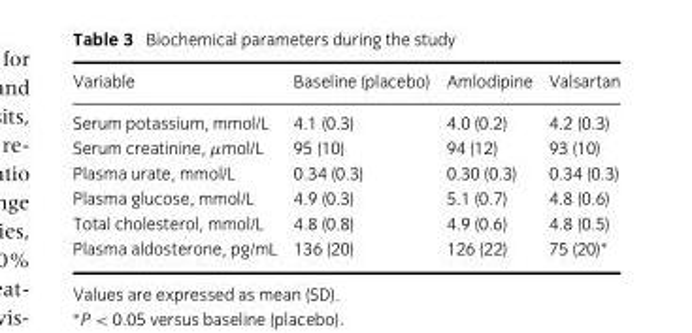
<table><thead><tr><td>Variable</td><td>Baseline (placebo)</td><td>Amlodipine</td><td>Valsartan</td></tr></thead><tbody><tr><td>Serum potassium, mmol/L</td><td>4.1 (0.3)</td><td>4.0 (0.2)</td><td>4.2 (0.3)</td></tr><tr><td>Serum creatinine, μmol/L</td><td>95 (10)</td><td>94 (12)</td><td>93 (10)</td></tr><tr><td>Plasma urate, mmol/L</td><td>0.34 (0.3)</td><td>0.30 (0.3)</td><td>0.34 (0.3)</td></tr><tr><td>Plasma glucose, mmol/L</td><td>4.9 (0.3)</td><td>5.1 (0.7)</td><td>4.8 (0.6)</td></tr><tr><td>Total cholesterol, mmol/L</td><td>4.8 (0.8)</td><td>4.9 (0.6)</td><td>4.8 (0.5)</td></tr><tr><td>Plasma aldosterone, pg/mL</td><td>136 (20)</td><td>126 (22)</td><td>75 (20)∗</td></tr></tbody></table>